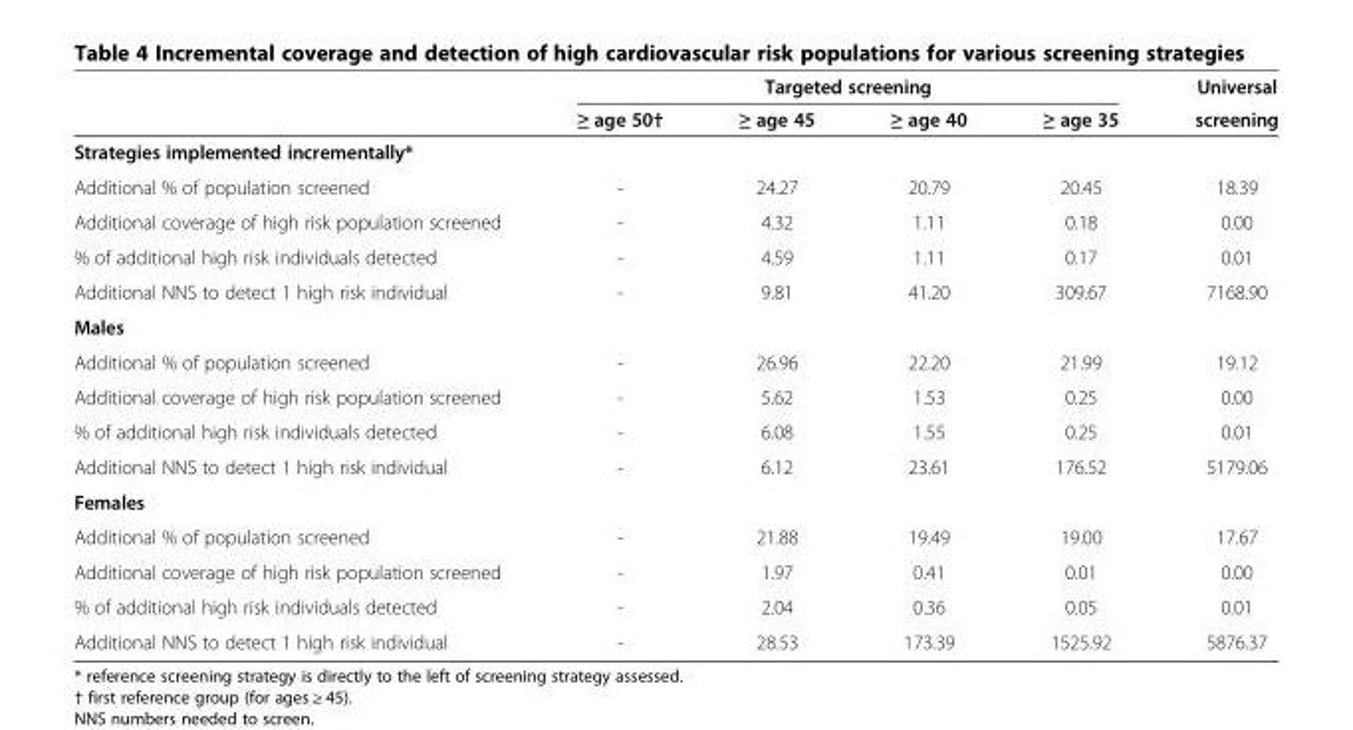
<table><thead><tr><td rowspan="2"></td><td colspan="4">Targeted screening</td><td rowspan="2">Universal screening</td></tr><tr><td>≥ age 50†</td><td>≥ age 45</td><td>≥ age 40</td><td>≥ age 35</td></tr></thead><tbody><tr><td colspan="6">Strategies implemented incrementally*</td></tr><tr><td>Additional % of population screened</td><td>-</td><td>24.27</td><td>20.79</td><td>20.45</td><td>18.39</td></tr><tr><td>Additional coverage of high risk population screened</td><td>-</td><td>4.32</td><td>1.11</td><td>0.18</td><td>0.00</td></tr><tr><td>% of additional high risk individuals detected</td><td>-</td><td>4.59</td><td>1.11</td><td>0.17</td><td>0.01</td></tr><tr><td>Additional NNS to detect 1 high risk individual</td><td>-</td><td>9.81</td><td>41.20</td><td>309.67</td><td>7168.90</td></tr><tr><td colspan="6">Males</td></tr><tr><td>Additional % of population screened</td><td>-</td><td>26.96</td><td>22.20</td><td>21.99</td><td>19.12</td></tr><tr><td>Additional coverage of high risk population screened</td><td>-</td><td>5.62</td><td>1.53</td><td>0.25</td><td>0.00</td></tr><tr><td>% of additional high risk individuals detected</td><td>-</td><td>6.08</td><td>1.55</td><td>0.25</td><td>0.01</td></tr><tr><td>Additional NNS to detect 1 high risk individual</td><td>-</td><td>6.12</td><td>23.61</td><td>176.52</td><td>5179.06</td></tr><tr><td colspan="6">Females</td></tr><tr><td>Additional % of population screened</td><td>-</td><td>21.88</td><td>19.49</td><td>19.00</td><td>17.67</td></tr><tr><td>Additional coverage of high risk population screened</td><td>-</td><td>1.97</td><td>0.41</td><td>0.01</td><td>0.00</td></tr><tr><td>% of additional high risk individuals detected</td><td>-</td><td>2.04</td><td>0.36</td><td>0.05</td><td>0.01</td></tr><tr><td>Additional NNS to detect 1 high risk individual</td><td>-</td><td>28.53</td><td>173.39</td><td>1525.92</td><td>5876.37</td></tr></tbody></table>